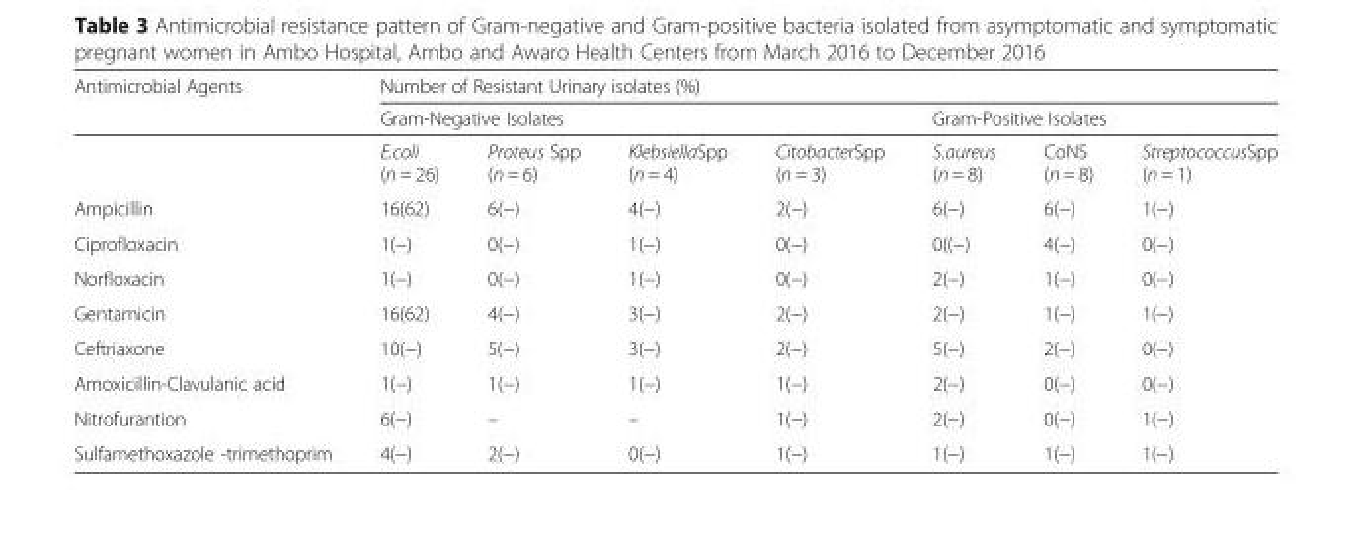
<table><thead><tr><td rowspan="3">Antimicrobial Agents</td><td colspan="7">Number of Resistant Urinary isolates (%)</td></tr><tr><td colspan="4">Gram-Negative Isolates</td><td colspan="3">Gram-Positive Isolates</td></tr><tr><td>E.coli (n = 26)</td><td>Proteus Spp (n = 6)</td><td>KlebsiellaSpp (n = 4)</td><td>CitobacterSpp (n = 3)</td><td>S.aureus (n = 8)</td><td>CoNS (n = 8)</td><td>StreptococcusSpp (n = 1)</td></tr></thead><tbody><tr><td>Ampicillin</td><td>16(62)</td><td>6(−)</td><td>4(−)</td><td>2(−)</td><td>6(−)</td><td>6(−)</td><td>1(−)</td></tr><tr><td>Ciprofloxacin</td><td>1(−)</td><td>0(−)</td><td>1(−)</td><td>0(−)</td><td>0((−)</td><td>4(−)</td><td>0(−)</td></tr><tr><td>Norfloxacin</td><td>1(−)</td><td>0(−)</td><td>1(−)</td><td>0(−)</td><td>2(−)</td><td>1(−)</td><td>0(−)</td></tr><tr><td>Gentamicin</td><td>16(62)</td><td>4(−)</td><td>3(−)</td><td>2(−)</td><td>2(−)</td><td>1(−)</td><td>1(−)</td></tr><tr><td>Ceftriaxone</td><td>10(−)</td><td>5(−)</td><td>3(−)</td><td>2(−)</td><td>5(−)</td><td>2(−)</td><td>0(−)</td></tr><tr><td>Amoxicillin-Clavulanic acid</td><td>1(−)</td><td>1(−)</td><td>1(−)</td><td>1(−)</td><td>2(−)</td><td>0(−)</td><td>0(−)</td></tr><tr><td>Nitrofurantion</td><td>6(−)</td><td>–</td><td>–</td><td>1(−)</td><td>2(−)</td><td>0(−)</td><td>1(−)</td></tr><tr><td>Sulfamethoxazole -trimethoprim</td><td>4(−)</td><td>2(−)</td><td>0(−)</td><td>1(−)</td><td>1(−)</td><td>1(−)</td><td>1(−)</td></tr></tbody></table>